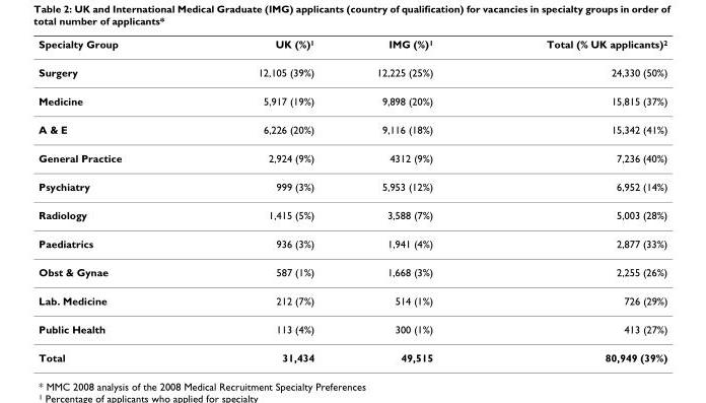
<table><thead><tr><td>Specialty Group</td><td>UK (%)<sup>1</sup></td><td>IMG (%)<sup>1</sup></td><td>Total (% UK applicants)<sup>2</sup></td></tr></thead><tbody><tr><td>Surgery</td><td>12,105 (39%)</td><td>12,225 (25%)</td><td>24,330 (50%)</td></tr><tr><td>Medicine</td><td>5,917 (19%)</td><td>9,898 (20%)</td><td>15,815 (37%)</td></tr><tr><td>A &amp; E</td><td>6,226 (20%)</td><td>9,116 (18%)</td><td>15,342 (41%)</td></tr><tr><td>General Practice</td><td>2,924 (9%)</td><td>4312 (9%)</td><td>7,236 (40%)</td></tr><tr><td>Psychiatry</td><td>999 (3%)</td><td>5,953 (12%)</td><td>6,952 (14%)</td></tr><tr><td>Radiology</td><td>1,415 (5%)</td><td>3,588 (7%)</td><td>5,003 (28%)</td></tr><tr><td>Paediatrics</td><td>936 (3%)</td><td>1,941 (4%)</td><td>2,877 (33%)</td></tr><tr><td>Obst &amp; Gynae</td><td>587 (1%)</td><td>1,668 (3%)</td><td>2,255 (26%)</td></tr><tr><td>Lab. Medicine</td><td>212 (7%)</td><td>514 (1%)</td><td>726 (29%)</td></tr><tr><td>Public Health</td><td>113 (4%)</td><td>300 (1%)</td><td>413 (27%)</td></tr><tr><td>Total</td><td>31,434</td><td>49,515</td><td>80,949 (39%)</td></tr></tbody></table>